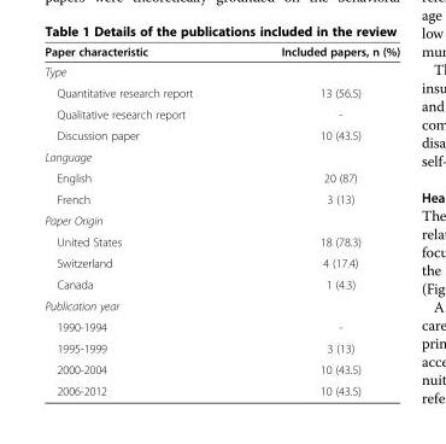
<table><thead><tr><td>Paper characteristic</td><td>Included papers, n (%)</td></tr></thead><tbody><tr><td colspan="2">Type</td></tr><tr><td>Quantitative research report</td><td>13 (56.5)</td></tr><tr><td>Qualitative research report</td><td>-</td></tr><tr><td>Discussion paper</td><td>10 (43.5)</td></tr><tr><td colspan="2">Language</td></tr><tr><td>English</td><td>20 (87)</td></tr><tr><td>French</td><td>3 (13)</td></tr><tr><td colspan="2">Paper Origin</td></tr><tr><td>United States</td><td>18 (78.3)</td></tr><tr><td>Switzerland</td><td>4 (17.4)</td></tr><tr><td>Canada</td><td>1 (4.3)</td></tr><tr><td colspan="2">Publication year</td></tr><tr><td>1990-1994</td><td>-</td></tr><tr><td>1995-1999</td><td>3 (13)</td></tr><tr><td>2000-2004</td><td>10 (43.5)</td></tr><tr><td>2006-2012</td><td>10 (43.5)</td></tr></tbody></table>